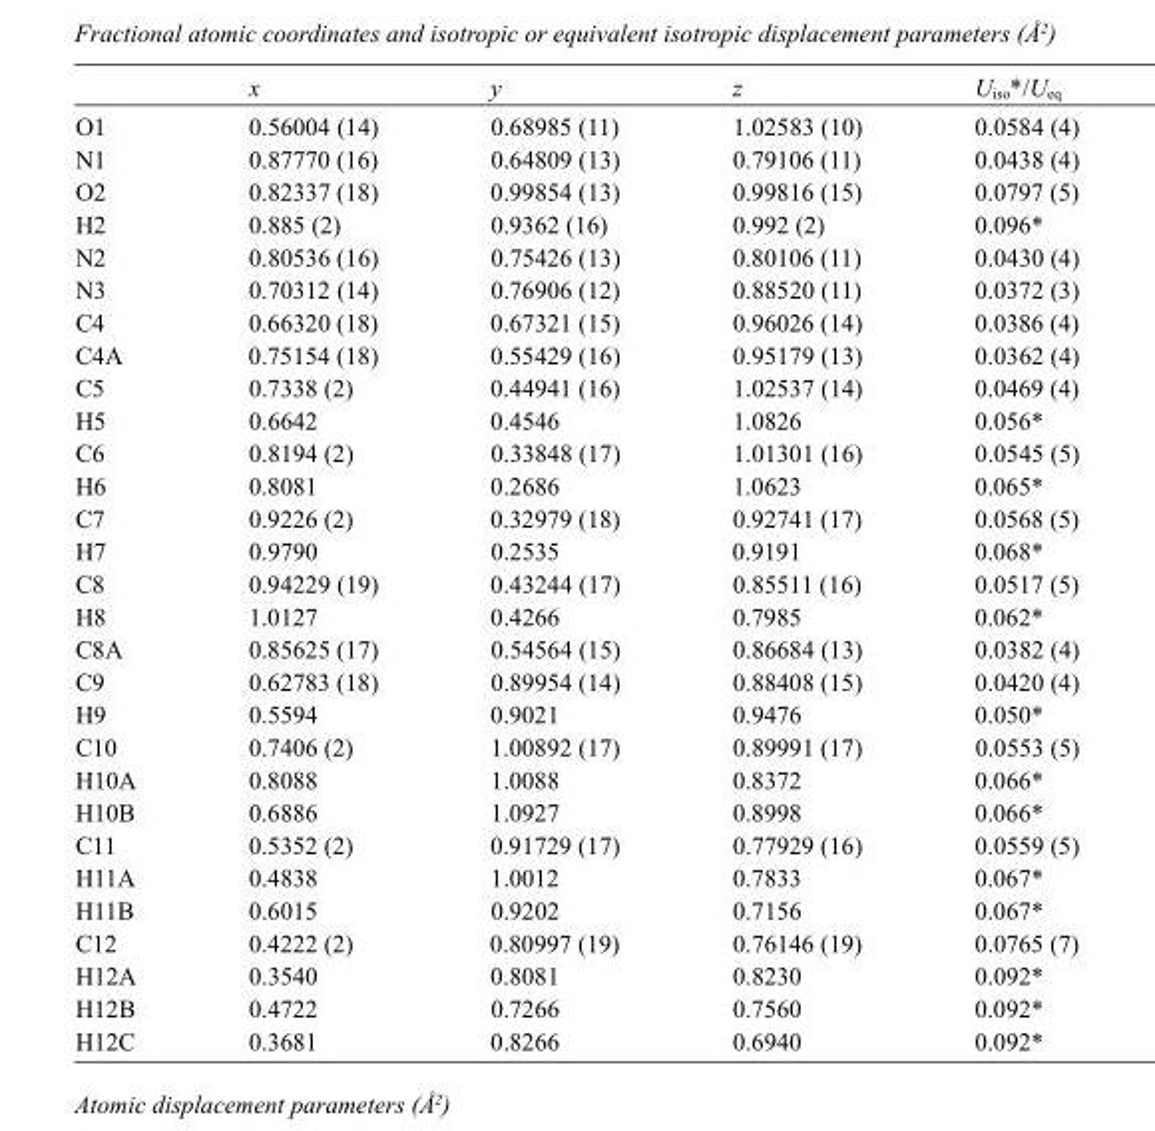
<table><thead><tr><td></td><td>x</td><td>y</td><td>z</td><td>U<sub>iso</sub>*/U<sub>eq</sub></td></tr></thead><tbody><tr><td>O1</td><td>0.56004 (14)</td><td>0.68985 (11)</td><td>1.02583 (10)</td><td>0.0584 (4)</td></tr><tr><td>N1</td><td>0.87770 (16)</td><td>0.64809 (13)</td><td>0.79106 (11)</td><td>0.0438 (4)</td></tr><tr><td>O2</td><td>0.82337 (18)</td><td>0.99854 (13)</td><td>0.99816 (15)</td><td>0.0797 (5)</td></tr><tr><td>H2</td><td>0.885 (2)</td><td>0.9362 (16)</td><td>0.992 (2)</td><td>0.096*</td></tr><tr><td>N2</td><td>0.80536 (16)</td><td>0.75426 (13)</td><td>0.80106 (11)</td><td>0.0430 (4)</td></tr><tr><td>N3</td><td>0.70312 (14)</td><td>0.76906 (12)</td><td>0.88520 (11)</td><td>0.0372 (3)</td></tr><tr><td>C4</td><td>0.66320 (18)</td><td>0.67321 (15)</td><td>0.96026 (14)</td><td>0.0386 (4)</td></tr><tr><td>C4A</td><td>0.75154 (18)</td><td>0.55429 (16)</td><td>0.95179 (13)</td><td>0.0362 (4)</td></tr><tr><td>C5</td><td>0.7338 (2)</td><td>0.44941 (16)</td><td>1.02537 (14)</td><td>0.0469 (4)</td></tr><tr><td>H5</td><td>0.6642</td><td>0.4546</td><td>1.0826</td><td>0.056*</td></tr><tr><td>C6</td><td>0.8194 (2)</td><td>0.33848 (17)</td><td>1.01301 (16)</td><td>0.0545 (5)</td></tr><tr><td>H6</td><td>0.8081</td><td>0.2686</td><td>1.0623</td><td>0.065*</td></tr><tr><td>C7</td><td>0.9226 (2)</td><td>0.32979 (18)</td><td>0.92741 (17)</td><td>0.0568 (5)</td></tr><tr><td>H7</td><td>0.9790</td><td>0.2535</td><td>0.9191</td><td>0.068*</td></tr><tr><td>C8</td><td>0.94229 (19)</td><td>0.43244 (17)</td><td>0.85511 (16)</td><td>0.0517 (5)</td></tr><tr><td>H8</td><td>1.0127</td><td>0.4266</td><td>0.7985</td><td>0.062*</td></tr><tr><td>C8A</td><td>0.85625 (17)</td><td>0.54564 (15)</td><td>0.86684 (13)</td><td>0.0382 (4)</td></tr><tr><td>C9</td><td>0.62783 (18)</td><td>0.89954 (14)</td><td>0.88408 (15)</td><td>0.0420 (4)</td></tr><tr><td>H9</td><td>0.5594</td><td>0.9021</td><td>0.9476</td><td>0.050*</td></tr><tr><td>C10</td><td>0.7406 (2)</td><td>1.00892 (17)</td><td>0.89991 (17)</td><td>0.0553 (5)</td></tr><tr><td>H10A</td><td>0.8088</td><td>1.0088</td><td>0.8372</td><td>0.066*</td></tr><tr><td>H10B</td><td>0.6886</td><td>1.0927</td><td>0.8998</td><td>0.066*</td></tr><tr><td>C11</td><td>0.5352 (2)</td><td>0.91729 (17)</td><td>0.77929 (16)</td><td>0.0559 (5)</td></tr><tr><td>H11A</td><td>0.4838</td><td>1.0012</td><td>0.7833</td><td>0.067*</td></tr><tr><td>H11B</td><td>0.6015</td><td>0.9202</td><td>0.7156</td><td>0.067*</td></tr><tr><td>C12</td><td>0.4222 (2)</td><td>0.80997 (19)</td><td>0.76146 (19)</td><td>0.0765 (7)</td></tr><tr><td>H12A</td><td>0.3540</td><td>0.8081</td><td>0.8230</td><td>0.092*</td></tr><tr><td>H12B</td><td>0.4722</td><td>0.7266</td><td>0.7560</td><td>0.092*</td></tr><tr><td>H12C</td><td>0.3681</td><td>0.8266</td><td>0.6940</td><td>0.092*</td></tr></tbody></table>